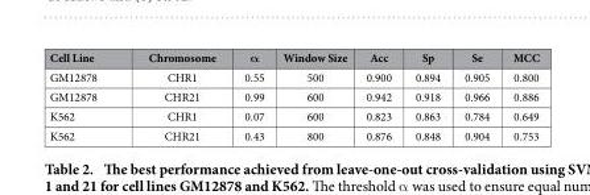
<table><thead><tr><td>Cell Line</td><td>Chromosome</td><td>α</td><td>Window Size</td><td>Acc</td><td>Sp</td><td>Se</td><td>MCC</td></tr></thead><tbody><tr><td>GM12878</td><td>CHR1</td><td>0.55</td><td>500</td><td>0.900</td><td>0.894</td><td>0.905</td><td>0.800</td></tr><tr><td>GM12878</td><td>CHR21</td><td>0.99</td><td>600</td><td>0.942</td><td>0.918</td><td>0.966</td><td>0.886</td></tr><tr><td>K562</td><td>CHR1</td><td>0.07</td><td>600</td><td>0.823</td><td>0.863</td><td>0.784</td><td>0.649</td></tr><tr><td>K562</td><td>CHR21</td><td>0.43</td><td>800</td><td>0.876</td><td>0.848</td><td>0.904</td><td>0.753</td></tr></tbody></table>